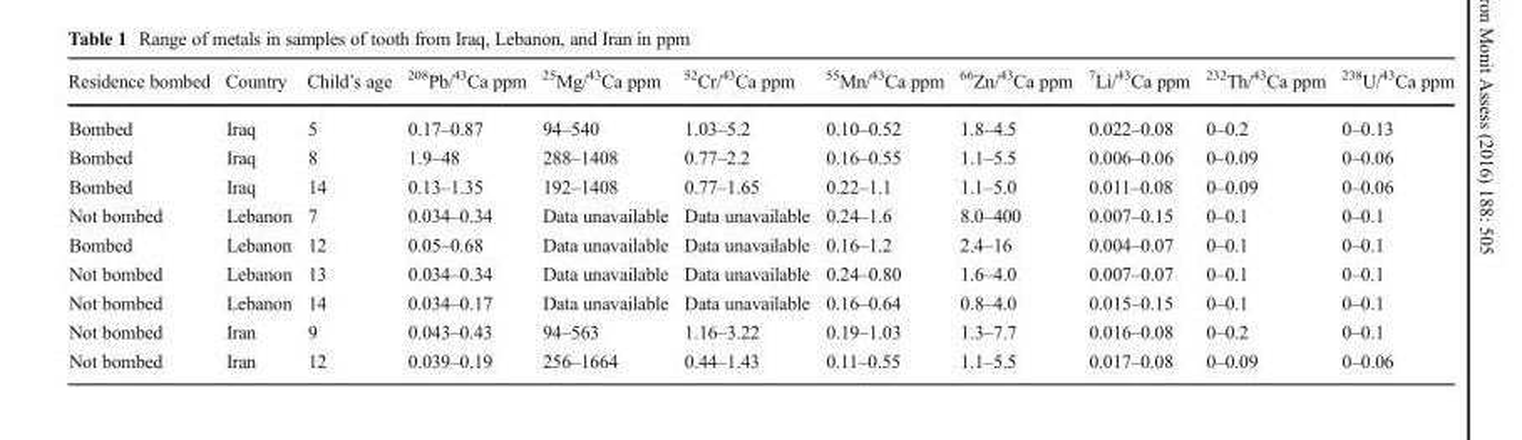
<table><thead><tr><td>Residence bombed</td><td>Country</td><td>Child’s age</td><td><sup>208</sup>Pb/<sup>43</sup>Ca ppm</td><td><sup>25</sup>Mg/<sup>43</sup>Ca ppm</td><td><sup>52</sup>Cr/<sup>43</sup>Ca ppm</td><td><sup>55</sup>Mn/<sup>43</sup>Ca ppm</td><td><sup>66</sup>Zn/<sup>43</sup>Ca ppm</td><td><sup>7</sup>Li/<sup>43</sup>Ca ppm</td><td><sup>232</sup>Th/<sup>43</sup>Ca ppm</td><td><sup>238</sup>U/<sup>43</sup>Ca ppm</td></tr></thead><tbody><tr><td>Bombed</td><td>Iraq</td><td>5</td><td>0.17–0.87</td><td>94–540</td><td>1.03–5.2</td><td>0.10–0.52</td><td>1.8–4.5</td><td>0.022–0.08</td><td>0–0.2</td><td>0–0.13</td></tr><tr><td>Bombed</td><td>Iraq</td><td>8</td><td>1.9–48</td><td>288–1408</td><td>0.77–2.2</td><td>0.16–0.55</td><td>1.1–5.5</td><td>0.006–0.06</td><td>0–0.09</td><td>0–0.06</td></tr><tr><td>Bombed</td><td>Iraq</td><td>14</td><td>0.13–1.35</td><td>192–1408</td><td>0.77–1.65</td><td>0.22–1.1</td><td>1.1–5.0</td><td>0.011–0.08</td><td>0–0.09</td><td>0–0.06</td></tr><tr><td>Not bombed</td><td>Lebanon</td><td>7</td><td>0.034–0.34</td><td>Data unavailable</td><td>Data unavailable</td><td>0.24–1.6</td><td>8.0–400</td><td>0.007–0.15</td><td>0–0.1</td><td>0–0.1</td></tr><tr><td>Bombed</td><td>Lebanon</td><td>12</td><td>0.05–0.68</td><td>Data unavailable</td><td>Data unavailable</td><td>0.16–1.2</td><td>2.4–16</td><td>0.004–0.07</td><td>0–0.1</td><td>0–0.1</td></tr><tr><td>Not bombed</td><td>Lebanon</td><td>13</td><td>0.034–0.34</td><td>Data unavailable</td><td>Data unavailable</td><td>0.24–0.80</td><td>1.6–4.0</td><td>0.007–0.07</td><td>0–0.1</td><td>0–0.1</td></tr><tr><td>Not bombed</td><td>Lebanon</td><td>14</td><td>0.034–0.17</td><td>Data unavailable</td><td>Data unavailable</td><td>0.16–0.64</td><td>0.8–4.0</td><td>0.015–0.15</td><td>0–0.1</td><td>0–0.1</td></tr><tr><td>Not bombed</td><td>Iran</td><td>9</td><td>0.043–0.43</td><td>94–563</td><td>1.16–3.22</td><td>0.19–1.03</td><td>1.3–7.7</td><td>0.016–0.08</td><td>0–0.2</td><td>0–0.1</td></tr><tr><td>Not bombed</td><td>Iran</td><td>12</td><td>0.039–0.19</td><td>256–1664</td><td>0.44–1.43</td><td>0.11–0.55</td><td>1.1–5.5</td><td>0.017–0.08</td><td>0–0.09</td><td>0–0.06</td></tr></tbody></table>